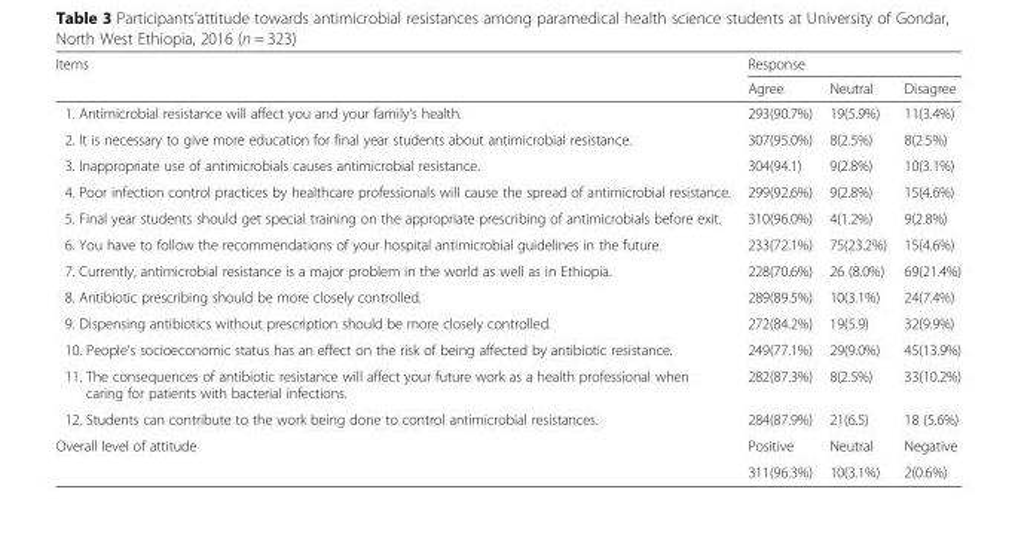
<table><thead><tr><td rowspan="2">Items</td><td colspan="3">Response</td></tr><tr><td>Agree</td><td>Neutral</td><td>Disagree</td></tr></thead><tbody><tr><td>1. Antimicrobial resistance will affect you and your family’s health.</td><td>293(90.7%)</td><td>19(5.9%)</td><td>11(3.4%)</td></tr><tr><td>2. It is necessary to give more education for final year students about antimicrobial resistance.</td><td>307(95.0%)</td><td>8(2.5%)</td><td>8(2.5%)</td></tr><tr><td>3. Inappropriate use of antimicrobials causes antimicrobial resistance.</td><td>304(94.1)</td><td>9(2.8%)</td><td>10(3.1%)</td></tr><tr><td>4. Poor infection control practices by healthcare professionals will cause the spread of antimicrobial resistance.</td><td>299(92.6%)</td><td>9(2.8%)</td><td>15(4.6%)</td></tr><tr><td>5. Final year students should get special training on the appropriate prescribing of antimicrobials before exit.</td><td>310(96.0%)</td><td>4(1.2%)</td><td>9(2.8%)</td></tr><tr><td>6. You have to follow the recommendations of your hospital antimicrobial guidelines in the future.</td><td>233(72.1%)</td><td>75(23.2%)</td><td>15(4.6%)</td></tr><tr><td>7. Currently, antimicrobial resistance is a major problem in the world as well as in Ethiopia.</td><td>228(70.6%)</td><td>26 (8.0%)</td><td>69(21.4%)</td></tr><tr><td>8. Antibiotic prescribing should be more closely controlled.</td><td>289(89.5%)</td><td>10(3.1%)</td><td>24(7.4%)</td></tr><tr><td>9. Dispensing antibiotics without prescription should be more closely controlled.</td><td>272(84.2%)</td><td>19(5.9)</td><td>32(9.9%)</td></tr><tr><td>10. People’s socioeconomic status has an effect on the risk of being affected by antibiotic resistance.</td><td>249(77.1%)</td><td>29(9.0%)</td><td>45(13.9%)</td></tr><tr><td>11. The consequences of antibiotic resistance will affect your future work as a health professional when caring for patients with bacterial infections.</td><td>282(87.3%)</td><td>8(2.5%)</td><td>33(10.2%)</td></tr><tr><td>12. Students can contribute to the work being done to control antimicrobial resistances.</td><td>284(87.9%)</td><td>21(6.5)</td><td>18 (5.6%)</td></tr><tr><td rowspan="2">Overall level of attitude</td><td>Positive</td><td>Neutral</td><td>Negative</td></tr><tr><td>311(96.3%)</td><td>10(3.1%)</td><td>2(0.6%)</td></tr></tbody></table>